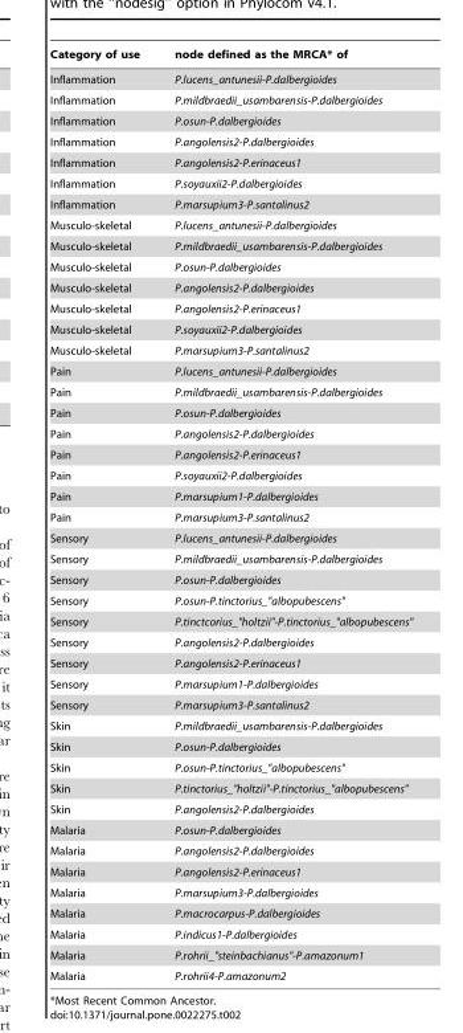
<table><thead><tr><td>Category of use</td><td>node defined as the MRCA* of</td></tr></thead><tbody><tr><td>Inflammation</td><td>P.lucens_antunesii-P.dalbergioides</td></tr><tr><td>Inflammation</td><td>P.mildbraedii_usambarensis-P.dalbergioides</td></tr><tr><td>Inflammation</td><td>P.osun-P.dalbergioides</td></tr><tr><td>Inflammation</td><td>P.angolensis2-P.dalbergioides</td></tr><tr><td>Inflammation</td><td>P.angolensis2-P.erinaceus1</td></tr><tr><td>Inflammation</td><td>P.soyauxii2-P.dalbergioides</td></tr><tr><td>Inflammation</td><td>P.marsupium3-P.santalinus2</td></tr><tr><td>Musculo-skeletal</td><td>P.lucens_antunesii-P.dalbergioides</td></tr><tr><td>Musculo-skeletal</td><td>P.mildbraedii_usambarensis-P.dalbergioides</td></tr><tr><td>Musculo-skeletal</td><td>P.osun-P.dalbergioides</td></tr><tr><td>Musculo-skeletal</td><td>P.angolensis2-P.dalbergioides</td></tr><tr><td>Musculo-skeletal</td><td>P.angolensis2-P.erinaceus1</td></tr><tr><td>Musculo-skeletal</td><td>P.soyauxii2-P.dalbergioides</td></tr><tr><td>Musculo-skeletal</td><td>P.marsupium3-P.santalinus2</td></tr><tr><td>Pain</td><td>P.lucens_antunesii-P.dalbergioides</td></tr><tr><td>Pain</td><td>P.mildbraedii_usambarensis-P.dalbergioides</td></tr><tr><td>Pain</td><td>P.osun-P.dalbergioides</td></tr><tr><td>Pain</td><td>P.angolensis2-P.dalbergioides</td></tr><tr><td>Pain</td><td>P.angolensis2-P.erinaceus1</td></tr><tr><td>Pain</td><td>P.soyauxii2-P.dalbergioides</td></tr><tr><td>Pain</td><td>P.marsupium1-P.dalbergioides</td></tr><tr><td>Pain</td><td>P.marsupium3-P.santalinus2</td></tr><tr><td>Sensory</td><td>P.lucens_antunesii-P.dalbergioides</td></tr><tr><td>Sensory</td><td>P.mildbraedii_usambarensis-P.dalbergioides</td></tr><tr><td>Sensory</td><td>P.osun-P.dalbergioides</td></tr><tr><td>Sensory</td><td>P.osun-P.tinctorius_&quot;albopubescens&quot;</td></tr><tr><td>Sensory</td><td>P.tinctcorius_&quot;holtzii&quot;-P.tinctorius_&quot;albopubescens&quot;</td></tr><tr><td>Sensory</td><td>P.angolensis2-P.dalbergioides</td></tr><tr><td>Sensory</td><td>P.angolensis2-P.erinaceus1</td></tr><tr><td>Sensory</td><td>P.marsupium1-P.dalbergioides</td></tr><tr><td>Sensory</td><td>P.marsupium3-P.santalinus2</td></tr><tr><td>Skin</td><td>P.mildbraedii_usambarensis-P.dalbergioides</td></tr><tr><td>Skin</td><td>P.osun-P.dalbergioides</td></tr><tr><td>Skin</td><td>P.osun-P.tinctorius_&quot;albopubescens&quot;</td></tr><tr><td>Skin</td><td>P.tinctorius_&quot;holtzii&quot;-P.tinctorius_&quot;albopubescens&quot;</td></tr><tr><td>Skin</td><td>P.angolensis2-P.dalbergioides</td></tr><tr><td>Malaria</td><td>P.osun-P.dalbergioides</td></tr><tr><td>Malaria</td><td>P.angolensis2-P.dalbergioides</td></tr><tr><td>Malaria</td><td>P.angolensis2-P.erinaceus1</td></tr><tr><td>Malaria</td><td>P.marsupium3-P.dalbergioides</td></tr><tr><td>Malaria</td><td>P.macrocarpus-P.dalbergioides</td></tr><tr><td>Malaria</td><td>P.indicus1-P.dalbergioides</td></tr><tr><td>Malaria</td><td>P.rohrii_&quot;steinbachianus&quot;-P.amazonum1</td></tr><tr><td>Malaria</td><td>P.rohrii4-P.amazonum2</td></tr></tbody></table>